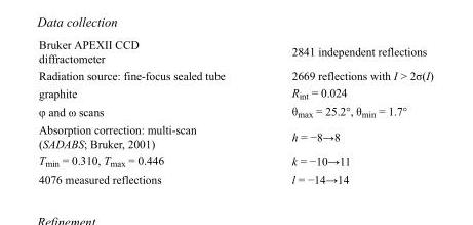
<table><tbody><tr><td>Bruker APEXII CCD diffractometer</td><td>2841 independent reflections</td></tr><tr><td>Radiation source: fine-focus sealed tube</td><td>2669 reflections with I &gt; 2σ(I)</td></tr><tr><td>graphite</td><td>R<sub>int</sub> = 0.024</td></tr><tr><td>φ and ω scans</td><td>θ<sub>max</sub> = 25.2°, θ<sub>min</sub> = 1.7°</td></tr><tr><td>Absorption correction: multi-scan (SADABS; Bruker, 2001)</td><td>h = −8→8</td></tr><tr><td>T<sub>min</sub> = 0.310, T<sub>max</sub> = 0.446</td><td>k = −10→11</td></tr><tr><td>4076 measured reflections</td><td>l = −14→14</td></tr></tbody></table>